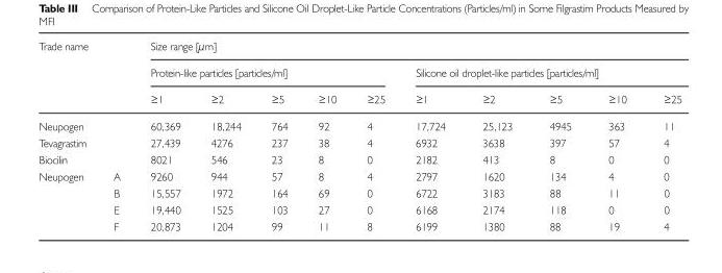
<table><thead><tr><td rowspan="3" colspan="2">Trade name</td><td colspan="10">Size range [μm]</td></tr><tr><td colspan="5">Protein-like particles [particles/ml]</td><td colspan="5">Silicone oil droplet-like particles [particles/ml]</td></tr><tr><td>≥1</td><td>≥2</td><td>≥5</td><td>≥10</td><td>≥25</td><td>≥1</td><td>≥2</td><td>≥5</td><td>≥10</td><td>≥25</td></tr></thead><tbody><tr><td colspan="2">Neupogen</td><td>60,369</td><td>18,244</td><td>764</td><td>92</td><td>4</td><td>17,724</td><td>25,123</td><td>4945</td><td>363</td><td>11</td></tr><tr><td colspan="2">Tevagrastim</td><td>27,439</td><td>4276</td><td>237</td><td>38</td><td>4</td><td>6932</td><td>3638</td><td>397</td><td>57</td><td>4</td></tr><tr><td colspan="2">Biocilin</td><td>8021</td><td>546</td><td>23</td><td>8</td><td>0</td><td>2182</td><td>413</td><td>8</td><td>0</td><td>0</td></tr><tr><td rowspan="4">Neupogen</td><td>A</td><td>9260</td><td>944</td><td>57</td><td>8</td><td>4</td><td>2797</td><td>1620</td><td>134</td><td>4</td><td>0</td></tr><tr><td>B</td><td>15,557</td><td>1972</td><td>164</td><td>69</td><td>0</td><td>6722</td><td>3183</td><td>88</td><td>11</td><td>0</td></tr><tr><td>E</td><td>19,440</td><td>1525</td><td>103</td><td>27</td><td>0</td><td>6168</td><td>2174</td><td>118</td><td>0</td><td>0</td></tr><tr><td>F</td><td>20,873</td><td>1204</td><td>99</td><td>11</td><td>8</td><td>6199</td><td>1380</td><td>88</td><td>19</td><td>4</td></tr></tbody></table>